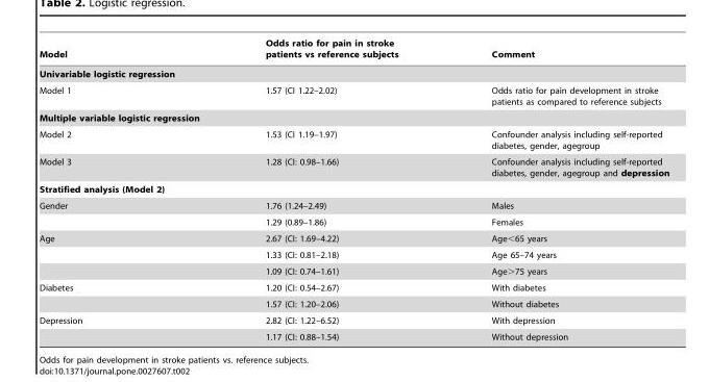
<table><thead><tr><td>Model</td><td>Odds ratio for pain in stroke patients vs reference subjects</td><td>Comment</td></tr></thead><tbody><tr><td colspan="3">Univariable logistic regression</td></tr><tr><td>Model 1</td><td>1.57 (CI 1.22–2.02)</td><td>Odds ratio for pain development in stroke patients as compared to reference subjects</td></tr><tr><td colspan="3">Multiple variable logistic regression</td></tr><tr><td>Model 2</td><td>1.53 (CI 1.19–1.97)</td><td>Confounder analysis including self-reported diabetes, gender, agegroup</td></tr><tr><td>Model 3</td><td>1.28 (CI: 0.98–1.66)</td><td>Confounder analysis including self-reported diabetes, gender, agegroup and depression</td></tr><tr><td colspan="3">Stratified analysis (Model 2)</td></tr><tr><td rowspan="2">Gender</td><td>1.76 (1.24–2.49)</td><td>Males</td></tr><tr><td>1.29 (0.89–1.86)</td><td>Females</td></tr><tr><td rowspan="3">Age</td><td>2.67 (CI: 1.69–4.22)</td><td>Age&lt;65 years</td></tr><tr><td>1.33 (CI: 0.81–2.18)</td><td>Age 65–74 years</td></tr><tr><td>1.09 (CI: 0.74–1.61)</td><td>Age&gt;75 years</td></tr><tr><td rowspan="2">Diabetes</td><td>1.20 (CI: 0.54–2.67)</td><td>With diabetes</td></tr><tr><td>1.57 (CI: 1.20–2.06)</td><td>Without diabetes</td></tr><tr><td rowspan="2">Depression</td><td>2.82 (CI: 1.22–6.52)</td><td>With depression</td></tr><tr><td>1.17 (CI: 0.88–1.54)</td><td>Without depression</td></tr></tbody></table>